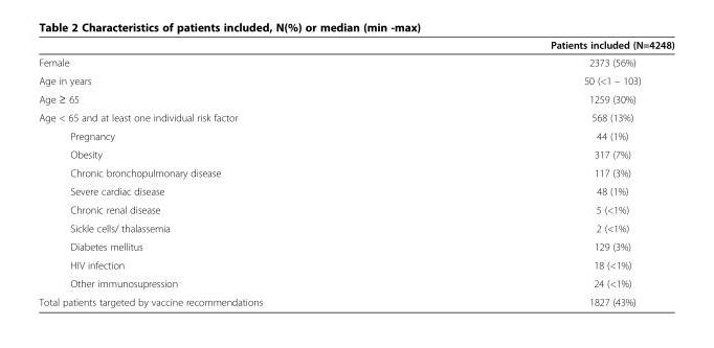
<table><thead><tr><td></td><td>Patients included (N=4248)</td></tr></thead><tbody><tr><td>Female</td><td>2373 (56%)</td></tr><tr><td>Age in years</td><td>50 (&lt;1 – 103)</td></tr><tr><td>Age ≥ 65</td><td>1259 (30%)</td></tr><tr><td>Age &lt; 65 and at least one individual risk factor</td><td>568 (13%)</td></tr><tr><td>Pregnancy</td><td>44 (1%)</td></tr><tr><td>Obesity</td><td>317 (7%)</td></tr><tr><td>Chronic bronchopulmonary disease</td><td>117 (3%)</td></tr><tr><td>Severe cardiac disease</td><td>48 (1%)</td></tr><tr><td>Chronic renal disease</td><td>5 (&lt;1%)</td></tr><tr><td>Sickle cells/ thalassemia</td><td>2 (&lt;1%)</td></tr><tr><td>Diabetes mellitus</td><td>129 (3%)</td></tr><tr><td>HIV infection</td><td>18 (&lt;1%)</td></tr><tr><td>Other immunosupression</td><td>24 (&lt;1%)</td></tr><tr><td>Total patients targeted by vaccine recommendations</td><td>1827 (43%)</td></tr></tbody></table>